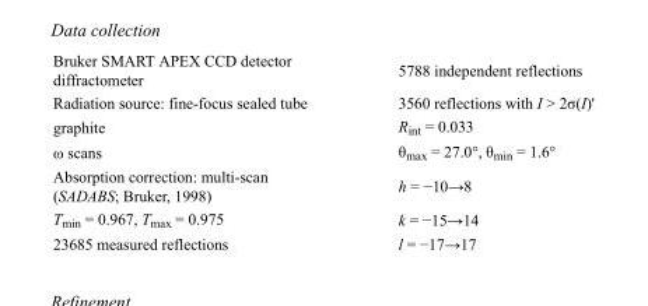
<table><tbody><tr><td>Bruker SMART APEX CCD detector diffractometer</td><td>5788 independent reflections</td></tr><tr><td>Radiation source: fine-focus sealed tube</td><td>3560 reflections with I &gt; 2σ(I)&#x27;</td></tr><tr><td>graphite</td><td>R<sub>int</sub> = 0.033</td></tr><tr><td>ω scans</td><td>θ<sub>max</sub> = 27.0°, θ<sub>min</sub> = 1.6°</td></tr><tr><td>Absorption correction: multi-scan (SADABS; Bruker, 1998)</td><td>h = −10→8</td></tr><tr><td>T<sub>min</sub> = 0.967, T<sub>max</sub> = 0.975</td><td>k = −15→14</td></tr><tr><td>23685 measured reflections</td><td>l = −17→17</td></tr></tbody></table>